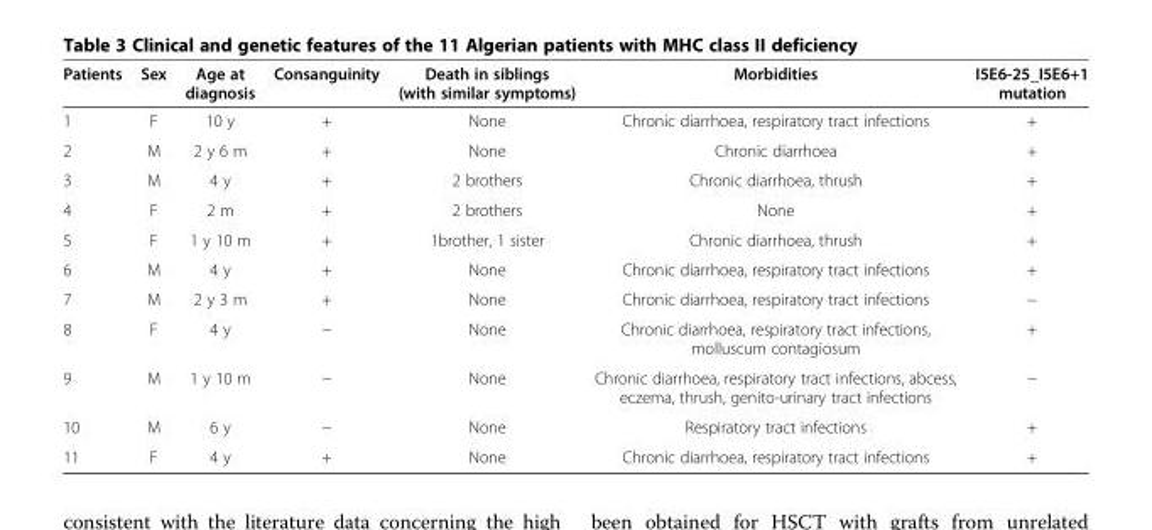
<table><thead><tr><td>Patients</td><td>Sex</td><td>Age at diagnosis</td><td>Consanguinity</td><td>Death in siblings (with similar symptoms)</td><td>Morbidities</td><td>I5E6-25_I5E6+1 mutation</td></tr></thead><tbody><tr><td>1</td><td>F</td><td>10 y</td><td>+</td><td>None</td><td>Chronic diarrhoea, respiratory tract infections</td><td>+</td></tr><tr><td>2</td><td>M</td><td>2 y 6 m</td><td>+</td><td>None</td><td>Chronic diarrhoea</td><td>+</td></tr><tr><td>3</td><td>M</td><td>4 y</td><td>+</td><td>2 brothers</td><td>Chronic diarrhoea, thrush</td><td>+</td></tr><tr><td>4</td><td>F</td><td>2 m</td><td>+</td><td>2 brothers</td><td>None</td><td>+</td></tr><tr><td>5</td><td>F</td><td>1 y 10 m</td><td>+</td><td>1brother, 1 sister</td><td>Chronic diarrhoea, thrush</td><td>+</td></tr><tr><td>6</td><td>M</td><td>4 y</td><td>+</td><td>None</td><td>Chronic diarrhoea, respiratory tract infections</td><td>+</td></tr><tr><td>7</td><td>M</td><td>2 y 3 m</td><td>+</td><td>None</td><td>Chronic diarrhoea, respiratory tract infections</td><td>−</td></tr><tr><td>8</td><td>F</td><td>4 y</td><td>−</td><td>None</td><td>Chronic diarrhoea, respiratory tract infections, molluscum contagiosum</td><td>+</td></tr><tr><td>9</td><td>M</td><td>1 y 10 m</td><td>−</td><td>None</td><td>Chronic diarrhoea, respiratory tract infections, abcess, eczema, thrush, genito-urinary tract infections</td><td>−</td></tr><tr><td>10</td><td>M</td><td>6 y</td><td>−</td><td>None</td><td>Respiratory tract infections</td><td>+</td></tr><tr><td>11</td><td>F</td><td>4 y</td><td>+</td><td>None</td><td>Chronic diarrhoea, respiratory tract infections</td><td>+</td></tr></tbody></table>